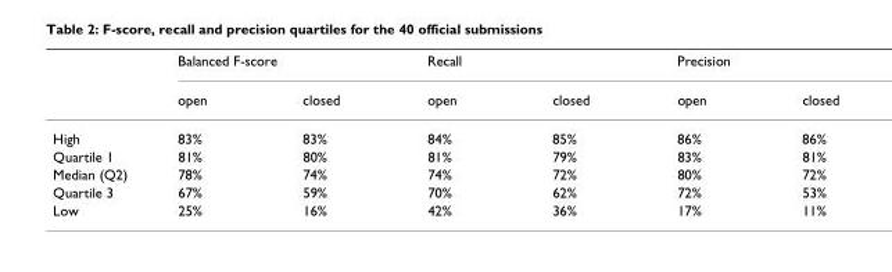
<table><thead><tr><td rowspan="2"></td><td colspan="2">Balanced F-score</td><td colspan="2">Recall</td><td colspan="2">Precision</td></tr><tr><td>open</td><td>closed</td><td>open</td><td>closed</td><td>open</td><td>closed</td></tr></thead><tbody><tr><td>High</td><td>83%</td><td>83%</td><td>84%</td><td>85%</td><td>86%</td><td>86%</td></tr><tr><td>Quartile 1</td><td>81%</td><td>80%</td><td>81%</td><td>79%</td><td>83%</td><td>81%</td></tr><tr><td>Median (Q2)</td><td>78%</td><td>74%</td><td>74%</td><td>72%</td><td>80%</td><td>72%</td></tr><tr><td>Quartile 3</td><td>67%</td><td>59%</td><td>70%</td><td>62%</td><td>72%</td><td>53%</td></tr><tr><td>Low</td><td>25%</td><td>16%</td><td>42%</td><td>36%</td><td>17%</td><td>11%</td></tr></tbody></table>